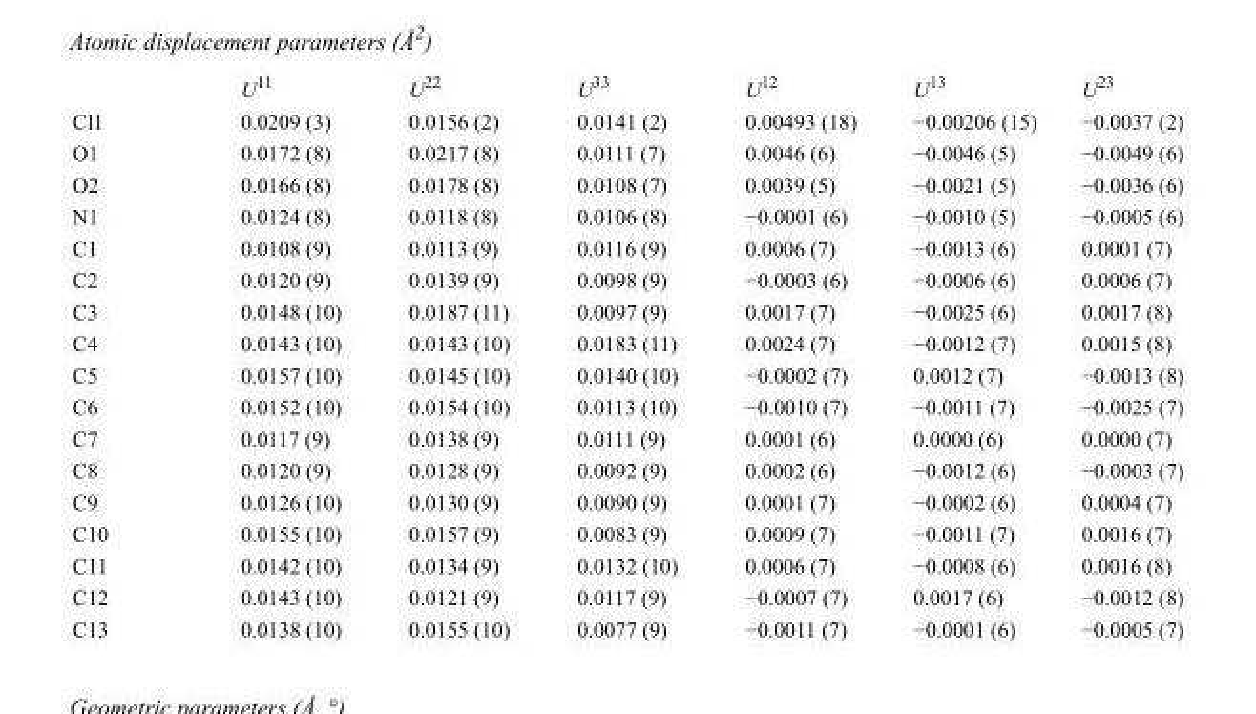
<table><thead><tr><td></td><td>U<sup>11</sup></td><td>U<sup>22</sup></td><td>U<sup>33</sup></td><td>U<sup>12</sup></td><td>U<sup>13</sup></td><td>U<sup>23</sup></td></tr></thead><tbody><tr><td>Cl1</td><td>0.0209 (3)</td><td>0.0156 (2)</td><td>0.0141 (2)</td><td>0.00493 (18)</td><td>−0.00206 (15)</td><td>−0.0037 (2)</td></tr><tr><td>O1</td><td>0.0172 (8)</td><td>0.0217 (8)</td><td>0.0111 (7)</td><td>0.0046 (6)</td><td>−0.0046 (5)</td><td>−0.0049 (6)</td></tr><tr><td>O2</td><td>0.0166 (8)</td><td>0.0178 (8)</td><td>0.0108 (7)</td><td>0.0039 (5)</td><td>−0.0021 (5)</td><td>−0.0036 (6)</td></tr><tr><td>N1</td><td>0.0124 (8)</td><td>0.0118 (8)</td><td>0.0106 (8)</td><td>−0.0001 (6)</td><td>−0.0010 (5)</td><td>−0.0005 (6)</td></tr><tr><td>C1</td><td>0.0108 (9)</td><td>0.0113 (9)</td><td>0.0116 (9)</td><td>0.0006 (7)</td><td>−0.0013 (6)</td><td>0.0001 (7)</td></tr><tr><td>C2</td><td>0.0120 (9)</td><td>0.0139 (9)</td><td>0.0098 (9)</td><td>−0.0003 (6)</td><td>−0.0006 (6)</td><td>0.0006 (7)</td></tr><tr><td>C3</td><td>0.0148 (10)</td><td>0.0187 (11)</td><td>0.0097 (9)</td><td>0.0017 (7)</td><td>−0.0025 (6)</td><td>0.0017 (8)</td></tr><tr><td>C4</td><td>0.0143 (10)</td><td>0.0143 (10)</td><td>0.0183 (11)</td><td>0.0024 (7)</td><td>−0.0012 (7)</td><td>0.0015 (8)</td></tr><tr><td>C5</td><td>0.0157 (10)</td><td>0.0145 (10)</td><td>0.0140 (10)</td><td>−0.0002 (7)</td><td>0.0012 (7)</td><td>−0.0013 (8)</td></tr><tr><td>C6</td><td>0.0152 (10)</td><td>0.0154 (10)</td><td>0.0113 (10)</td><td>−0.0010 (7)</td><td>−0.0011 (7)</td><td>−0.0025 (7)</td></tr><tr><td>C7</td><td>0.0117 (9)</td><td>0.0138 (9)</td><td>0.0111 (9)</td><td>0.0001 (6)</td><td>0.0000 (6)</td><td>0.0000 (7)</td></tr><tr><td>C8</td><td>0.0120 (9)</td><td>0.0128 (9)</td><td>0.0092 (9)</td><td>0.0002 (6)</td><td>−0.0012 (6)</td><td>−0.0003 (7)</td></tr><tr><td>C9</td><td>0.0126 (10)</td><td>0.0130 (9)</td><td>0.0090 (9)</td><td>0.0001 (7)</td><td>−0.0002 (6)</td><td>0.0004 (7)</td></tr><tr><td>C10</td><td>0.0155 (10)</td><td>0.0157 (9)</td><td>0.0083 (9)</td><td>0.0009 (7)</td><td>−0.0011 (7)</td><td>0.0016 (7)</td></tr><tr><td>C11</td><td>0.0142 (10)</td><td>0.0134 (9)</td><td>0.0132 (10)</td><td>0.0006 (7)</td><td>−0.0008 (6)</td><td>0.0016 (8)</td></tr><tr><td>C12</td><td>0.0143 (10)</td><td>0.0121 (9)</td><td>0.0117 (9)</td><td>−0.0007 (7)</td><td>0.0017 (6)</td><td>−0.0012 (8)</td></tr><tr><td>C13</td><td>0.0138 (10)</td><td>0.0155 (10)</td><td>0.0077 (9)</td><td>−0.0011 (7)</td><td>−0.0001 (6)</td><td>−0.0005 (7)</td></tr></tbody></table>